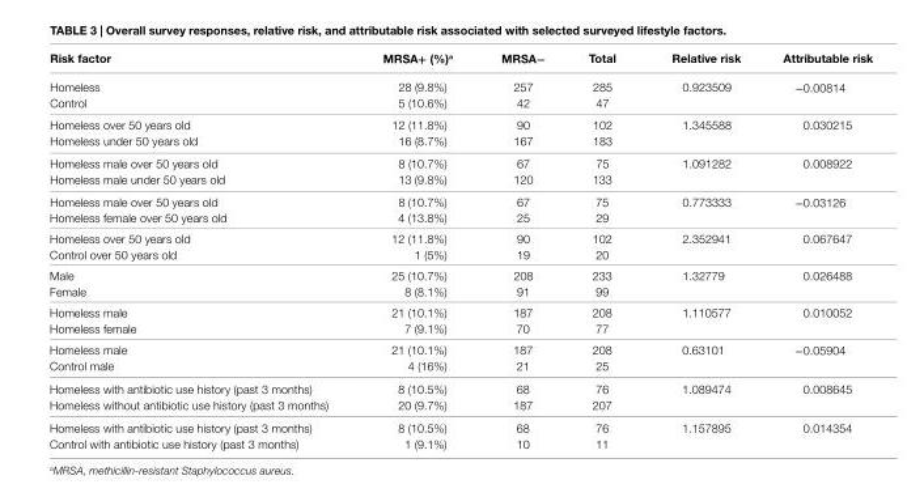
<table><thead><tr><td>risk factor</td><td>Mrsa+ (%)<sup>a</sup></td><td>Mrsa−</td><td>Total</td><td>relative risk</td><td>attributable risk</td></tr></thead><tbody><tr><td>Homeless</td><td>28 (9.8%)</td><td>257</td><td>285</td><td rowspan="2">0.923509</td><td rowspan="2">−0.00814</td></tr><tr><td>Control</td><td>5 (10.6%)</td><td>42</td><td>47</td></tr><tr><td>Homeless over 50 years old</td><td>12 (11.8%)</td><td>90</td><td>102</td><td rowspan="2">1.345588</td><td rowspan="2">0.030215</td></tr><tr><td>Homeless under 50 years old</td><td>16 (8.7%)</td><td>167</td><td>183</td></tr><tr><td>Homeless male over 50 years old</td><td>8 (10.7%)</td><td>67</td><td>75</td><td rowspan="2">1.091282</td><td rowspan="2">0.008922</td></tr><tr><td>Homeless male under 50 years old</td><td>13 (9.8%)</td><td>120</td><td>133</td></tr><tr><td>Homeless male over 50 years old</td><td>8 (10.7%)</td><td>67</td><td>75</td><td rowspan="2">0.773333</td><td rowspan="2">−0.03126</td></tr><tr><td>Homeless female over 50 years old</td><td>4 (13.8%)</td><td>25</td><td>29</td></tr><tr><td>Homeless over 50 years old</td><td>12 (11.8%)</td><td>90</td><td>102</td><td rowspan="2">2.352941</td><td rowspan="2">0.067647</td></tr><tr><td>Control over 50 years old</td><td>1 (5%)</td><td>19</td><td>20</td></tr><tr><td>Male</td><td>25 (10.7%)</td><td>208</td><td>233</td><td rowspan="2">1.32779</td><td rowspan="2">0.026488</td></tr><tr><td>Female</td><td>8 (8.1%)</td><td>91</td><td>99</td></tr><tr><td>Homeless male</td><td>21 (10.1%)</td><td>187</td><td>208</td><td rowspan="2">1.110577</td><td rowspan="2">0.010052</td></tr><tr><td>Homeless female</td><td>7 (9.1%)</td><td>70</td><td>77</td></tr><tr><td>Homeless male</td><td>21 (10.1%)</td><td>187</td><td>208</td><td rowspan="2">0.63101</td><td rowspan="2">−0.05904</td></tr><tr><td>Control male</td><td>4 (16%)</td><td>21</td><td>25</td></tr><tr><td>Homeless with antibiotic use history (past 3 months)</td><td>8 (10.5%)</td><td>68</td><td>76</td><td rowspan="2">1.089474</td><td rowspan="2">0.008645</td></tr><tr><td>Homeless without antibiotic use history (past 3 months)</td><td>20 (9.7%)</td><td>187</td><td>207</td></tr><tr><td>Homeless with antibiotic use history (past 3 months)</td><td>8 (10.5%)</td><td>68</td><td>76</td><td rowspan="2">1.157895</td><td rowspan="2">0.014354</td></tr><tr><td>Control with antibiotic use history (past 3 months)</td><td>1 (9.1%)</td><td>10</td><td>11</td></tr></tbody></table>